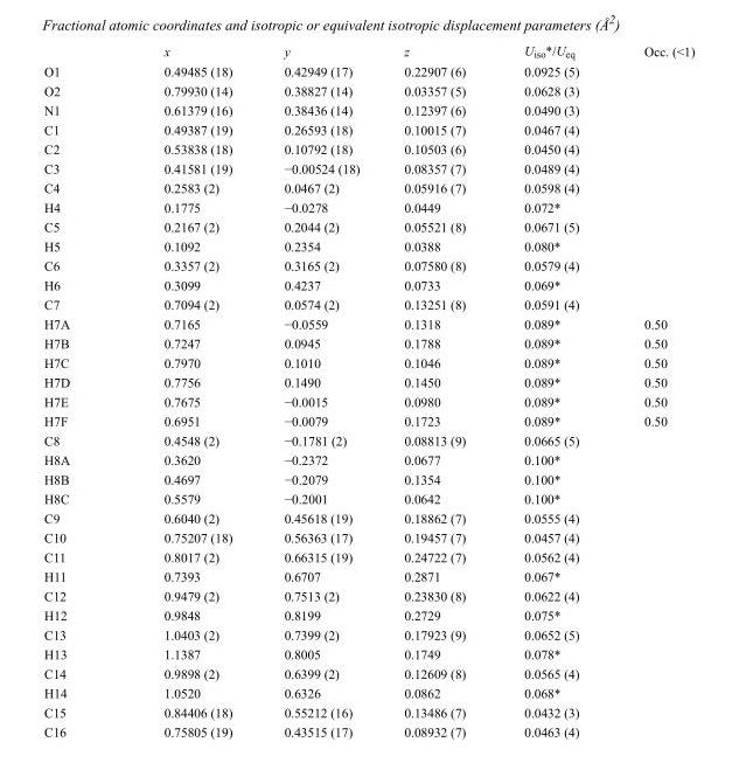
<table><thead><tr><td></td><td>x</td><td>y</td><td>z</td><td>U<sub>iso</sub>*/U<sub>eq</sub></td><td>Occ. (&lt;1)</td></tr></thead><tbody><tr><td>O1</td><td>0.49485 (18)</td><td>0.42949 (17)</td><td>0.22907 (6)</td><td>0.0925 (5)</td><td></td></tr><tr><td>O2</td><td>0.79930 (14)</td><td>0.38827 (14)</td><td>0.03357 (5)</td><td>0.0628 (3)</td><td></td></tr><tr><td>N1</td><td>0.61379 (16)</td><td>0.38436 (14)</td><td>0.12397 (6)</td><td>0.0490 (3)</td><td></td></tr><tr><td>C1</td><td>0.49387 (19)</td><td>0.26593 (18)</td><td>0.10015 (7)</td><td>0.0467 (4)</td><td></td></tr><tr><td>C2</td><td>0.53838 (18)</td><td>0.10792 (18)</td><td>0.10503 (6)</td><td>0.0450 (4)</td><td></td></tr><tr><td>C3</td><td>0.41581 (19)</td><td>−0.00524 (18)</td><td>0.08357 (7)</td><td>0.0489 (4)</td><td></td></tr><tr><td>C4</td><td>0.2583 (2)</td><td>0.0467 (2)</td><td>0.05916 (7)</td><td>0.0598 (4)</td><td></td></tr><tr><td>H4</td><td>0.1775</td><td>−0.0278</td><td>0.0449</td><td>0.072*</td><td></td></tr><tr><td>C5</td><td>0.2167 (2)</td><td>0.2044 (2)</td><td>0.05521 (8)</td><td>0.0671 (5)</td><td></td></tr><tr><td>H5</td><td>0.1092</td><td>0.2354</td><td>0.0388</td><td>0.080*</td><td></td></tr><tr><td>C6</td><td>0.3357 (2)</td><td>0.3165 (2)</td><td>0.07580 (8)</td><td>0.0579 (4)</td><td></td></tr><tr><td>H6</td><td>0.3099</td><td>0.4237</td><td>0.0733</td><td>0.069*</td><td></td></tr><tr><td>C7</td><td>0.7094 (2)</td><td>0.0574 (2)</td><td>0.13251 (8)</td><td>0.0591 (4)</td><td></td></tr><tr><td>H7A</td><td>0.7165</td><td>−0.0559</td><td>0.1318</td><td>0.089*</td><td>0.50</td></tr><tr><td>H7B</td><td>0.7247</td><td>0.0945</td><td>0.1788</td><td>0.089*</td><td>0.50</td></tr><tr><td>H7C</td><td>0.7970</td><td>0.1010</td><td>0.1046</td><td>0.089*</td><td>0.50</td></tr><tr><td>H7D</td><td>0.7756</td><td>0.1490</td><td>0.1450</td><td>0.089*</td><td>0.50</td></tr><tr><td>H7E</td><td>0.7675</td><td>−0.0015</td><td>0.0980</td><td>0.089*</td><td>0.50</td></tr><tr><td>H7F</td><td>0.6951</td><td>−0.0079</td><td>0.1723</td><td>0.089*</td><td>0.50</td></tr><tr><td>C8</td><td>0.4548 (2)</td><td>−0.1781 (2)</td><td>0.08813 (9)</td><td>0.0665 (5)</td><td></td></tr><tr><td>H8A</td><td>0.3620</td><td>−0.2372</td><td>0.0677</td><td>0.100*</td><td></td></tr><tr><td>H8B</td><td>0.4697</td><td>−0.2079</td><td>0.1354</td><td>0.100*</td><td></td></tr><tr><td>H8C</td><td>0.5579</td><td>−0.2001</td><td>0.0642</td><td>0.100*</td><td></td></tr><tr><td>C9</td><td>0.6040 (2)</td><td>0.45618 (19)</td><td>0.18862 (7)</td><td>0.0555 (4)</td><td></td></tr><tr><td>C10</td><td>0.75207 (18)</td><td>0.56363 (17)</td><td>0.19457 (7)</td><td>0.0457 (4)</td><td></td></tr><tr><td>C11</td><td>0.8017 (2)</td><td>0.66315 (19)</td><td>0.24722 (7)</td><td>0.0562 (4)</td><td></td></tr><tr><td>H11</td><td>0.7393</td><td>0.6707</td><td>0.2871</td><td>0.067*</td><td></td></tr><tr><td>C12</td><td>0.9479 (2)</td><td>0.7513 (2)</td><td>0.23830 (8)</td><td>0.0622 (4)</td><td></td></tr><tr><td>H12</td><td>0.9848</td><td>0.8199</td><td>0.2729</td><td>0.075*</td><td></td></tr><tr><td>C13</td><td>1.0403 (2)</td><td>0.7399 (2)</td><td>0.17923 (9)</td><td>0.0652 (5)</td><td></td></tr><tr><td>H13</td><td>1.1387</td><td>0.8005</td><td>0.1749</td><td>0.078*</td><td></td></tr><tr><td>C14</td><td>0.9898 (2)</td><td>0.6399 (2)</td><td>0.12609 (8)</td><td>0.0565 (4)</td><td></td></tr><tr><td>H14</td><td>1.0520</td><td>0.6326</td><td>0.0862</td><td>0.068*</td><td></td></tr><tr><td>C15</td><td>0.84406 (18)</td><td>0.55212 (16)</td><td>0.13486 (7)</td><td>0.0432 (3)</td><td></td></tr><tr><td>C16</td><td>0.75805 (19)</td><td>0.43515 (17)</td><td>0.08932 (7)</td><td>0.0463 (4)</td><td></td></tr></tbody></table>